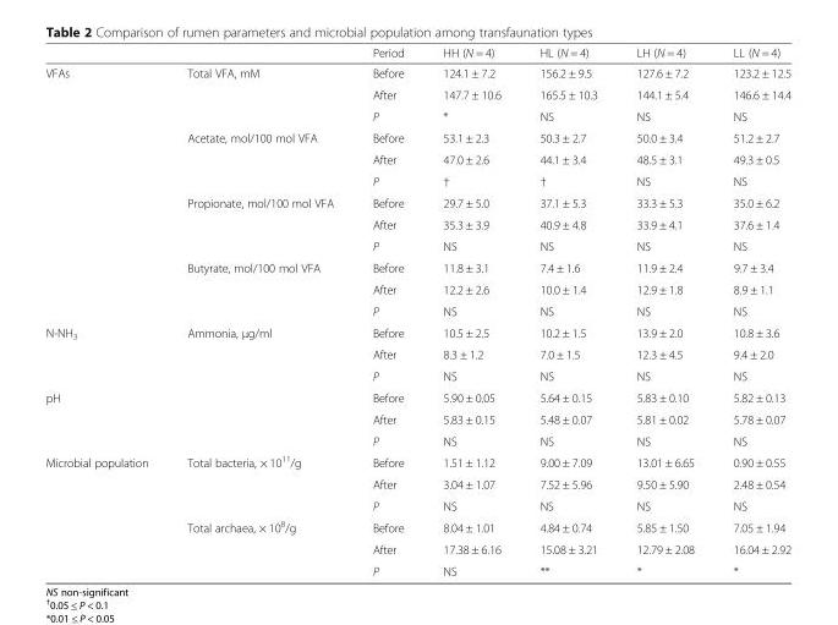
<table><thead><tr><td></td><td></td><td>Period</td><td>HH (N = 4)</td><td>HL (N = 4)</td><td>LH (N = 4)</td><td>LL (N = 4)</td></tr></thead><tbody><tr><td rowspan="12">VFAs</td><td rowspan="3">Total VFA, mM</td><td>Before</td><td>124.1 ± 7.2</td><td>156.2 ± 9.5</td><td>127.6 ± 7.2</td><td>123.2 ± 12.5</td></tr><tr><td>After</td><td>147.7 ± 10.6</td><td>165.5 ± 10.3</td><td>144.1 ± 5.4</td><td>146.6 ± 14.4</td></tr><tr><td>P</td><td>*</td><td>NS</td><td>NS</td><td>NS</td></tr><tr><td rowspan="3">Acetate, mol/100 mol VFA</td><td>Before</td><td>53.1 ± 2.3</td><td>50.3 ± 2.7</td><td>50.0 ± 3.4</td><td>51.2 ± 2.7</td></tr><tr><td>After</td><td>47.0 ± 2.6</td><td>44.1 ± 3.4</td><td>48.5 ± 3.1</td><td>49.3 ± 0.5</td></tr><tr><td>P</td><td>†</td><td>†</td><td>NS</td><td>NS</td></tr><tr><td rowspan="3">Propionate, mol/100 mol VFA</td><td>Before</td><td>29.7 ± 5.0</td><td>37.1 ± 5.3</td><td>33.3 ± 5.3</td><td>35.0 ± 6.2</td></tr><tr><td>After</td><td>35.3 ± 3.9</td><td>40.9 ± 4.8</td><td>33.9 ± 4.1</td><td>37.6 ± 1.4</td></tr><tr><td>P</td><td>NS</td><td>NS</td><td>NS</td><td>NS</td></tr><tr><td rowspan="3">Butyrate, mol/100 mol VFA</td><td>Before</td><td>11.8 ± 3.1</td><td>7.4 ± 1.6</td><td>11.9 ± 2.4</td><td>9.7 ± 3.4</td></tr><tr><td>After</td><td>12.2 ± 2.6</td><td>10.0 ± 1.4</td><td>12.9 ± 1.8</td><td>8.9 ± 1.1</td></tr><tr><td>P</td><td>NS</td><td>NS</td><td>NS</td><td>NS</td></tr><tr><td rowspan="3">N-NH<sub>3</sub></td><td rowspan="6">Ammonia, μg/ml</td><td>Before</td><td>10.5 ± 2.5</td><td>10.2 ± 1.5</td><td>13.9 ± 2.0</td><td>10.8 ± 3.6</td></tr><tr><td>After</td><td>8.3 ± 1.2</td><td>7.0 ± 1.5</td><td>12.3 ± 4.5</td><td>9.4 ± 2.0</td></tr><tr><td>P</td><td>NS</td><td>NS</td><td>NS</td><td>NS</td></tr><tr><td rowspan="3">pH</td><td>Before</td><td>5.90 ± 0.05</td><td>5.64 ± 0.15</td><td>5.83 ± 0.10</td><td>5.82 ± 0.13</td></tr><tr><td>After</td><td>5.83 ± 0.15</td><td>5.48 ± 0.07</td><td>5.81 ± 0.02</td><td>5.78 ± 0.07</td></tr><tr><td>P</td><td>NS</td><td>NS</td><td>NS</td><td>NS</td></tr><tr><td rowspan="6">Microbial population</td><td rowspan="3">Total bacteria, × 10<sup>11</sup>/g</td><td>Before</td><td>1.51 ± 1.12</td><td>9.00 ± 7.09</td><td>13.01 ± 6.65</td><td>0.90 ± 0.55</td></tr><tr><td>After</td><td>3.04 ± 1.07</td><td>7.52 ± 5.96</td><td>9.50 ± 5.90</td><td>2.48 ± 0.54</td></tr><tr><td>P</td><td>NS</td><td>NS</td><td>NS</td><td>NS</td></tr><tr><td rowspan="3">Total archaea, × 10<sup>8</sup>/g</td><td>Before</td><td>8.04 ± 1.01</td><td>4.84 ± 0.74</td><td>5.85 ± 1.50</td><td>7.05 ± 1.94</td></tr><tr><td>After</td><td>17.38 ± 6.16</td><td>15.08 ± 3.21</td><td>12.79 ± 2.08</td><td>16.04 ± 2.92</td></tr><tr><td>P</td><td>NS</td><td>**</td><td>*</td><td>*</td></tr></tbody></table>